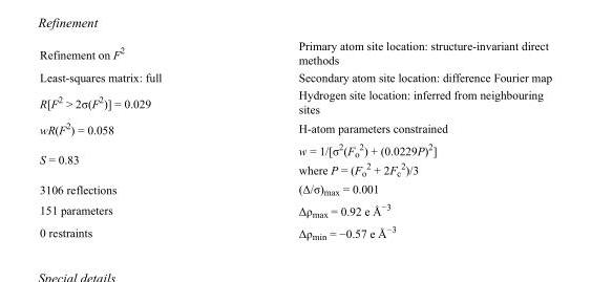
<table><tbody><tr><td>Refinement on F<sup>2</sup></td><td>Primary atom site location: structure-invariant direct methods</td></tr><tr><td>Least-squares matrix: full</td><td>Secondary atom site location: difference Fourier map</td></tr><tr><td>R[F<sup>2</sup> &gt; 2σ(F<sup>2</sup>)] = 0.029</td><td>Hydrogen site location: inferred from neighbouring sites</td></tr><tr><td>wR(F<sup>2</sup>) = 0.058</td><td>H-atom parameters constrained</td></tr><tr><td>S = 0.83</td><td>w = 1/[σ<sup>2</sup>(F<sub>o</sub> <sup>2</sup>) + (0.0229P)<sup>2</sup>] where P = (F<sub>o</sub> <sup>2</sup> + 2F<sub>c</sub> <sup>2</sup>)/3</td></tr><tr><td>3106 reflections</td><td>(Δ/σ)<sub>max</sub> = 0.001</td></tr><tr><td>151 parameters</td><td>Δρ<sub>max</sub> = 0.92 e Å<sup>−3</sup></td></tr><tr><td>0 restraints</td><td>Δρ<sub>min</sub> = −0.57 e Å<sup>−3</sup></td></tr></tbody></table>